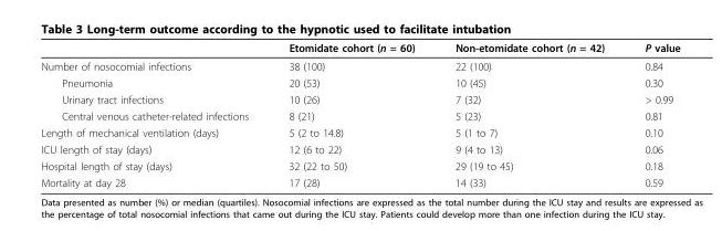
<table><thead><tr><td></td><td>Etomidate cohort (n = 60)</td><td>Non-etomidate cohort (n = 42)</td><td>P value</td></tr></thead><tbody><tr><td>Number of nosocomial infections</td><td>38 (100)</td><td>22 (100)</td><td>0.84</td></tr><tr><td>Pneumonia</td><td>20 (53)</td><td>10 (45)</td><td>0.30</td></tr><tr><td>Urinary tract infections</td><td>10 (26)</td><td>7 (32)</td><td>&gt; 0.99</td></tr><tr><td>Central venous catheter-related infections</td><td>8 (21)</td><td>5 (23)</td><td>0.81</td></tr><tr><td>Length of mechanical ventilation (days)</td><td>5 (2 to 14.8)</td><td>5 (1 to 7)</td><td>0.10</td></tr><tr><td>ICU length of stay (days)</td><td>12 (6 to 22)</td><td>9 (4 to 13)</td><td>0.06</td></tr><tr><td>Hospital length of stay (days)</td><td>32 (22 to 50)</td><td>29 (19 to 45)</td><td>0.18</td></tr><tr><td>Mortality at day 28</td><td>17 (28)</td><td>14 (33)</td><td>0.59</td></tr></tbody></table>